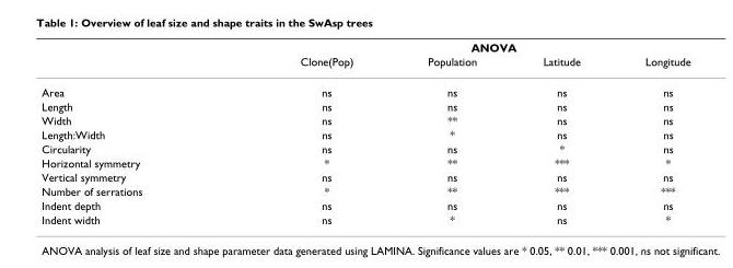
<table><thead><tr><td rowspan="2"></td><td colspan="4">ANOVA</td></tr><tr><td>Clone(Pop)</td><td>Population</td><td>Latitude</td><td>Longitude</td></tr></thead><tbody><tr><td>Area</td><td>ns</td><td>ns</td><td>ns</td><td>ns</td></tr><tr><td>Length</td><td>ns</td><td>ns</td><td>ns</td><td>ns</td></tr><tr><td>Width</td><td>ns</td><td>**</td><td>ns</td><td>ns</td></tr><tr><td>Length:Width</td><td>ns</td><td>*</td><td>ns</td><td>ns</td></tr><tr><td>Circularity</td><td>ns</td><td>ns</td><td>*</td><td>ns</td></tr><tr><td>Horizontal symmetry</td><td>*</td><td>**</td><td>***</td><td>*</td></tr><tr><td>Vertical symmetry</td><td>ns</td><td>ns</td><td>ns</td><td>ns</td></tr><tr><td>Number of serrations</td><td>*</td><td>**</td><td>***</td><td>***</td></tr><tr><td>Indent depth</td><td>ns</td><td>ns</td><td>ns</td><td>ns</td></tr><tr><td>Indent width</td><td>ns</td><td>*</td><td>ns</td><td>*</td></tr></tbody></table>